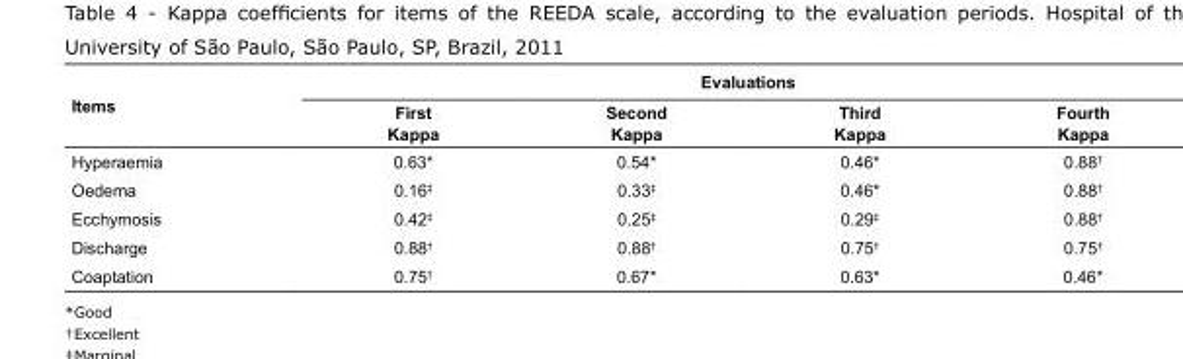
<table><thead><tr><td rowspan="2">Items</td><td colspan="4">Evaluations</td></tr><tr><td>First Kappa</td><td>Second Kappa</td><td>Third Kappa</td><td>Fourth Kappa</td></tr></thead><tbody><tr><td>Hyperaemia</td><td>0.63*</td><td>0.54*</td><td>0.46*</td><td>0.88<sup>†</sup></td></tr><tr><td>Oedema</td><td>0.16<sup>‡</sup></td><td>0.33<sup>‡</sup></td><td>0.46*</td><td>0.88<sup>†</sup></td></tr><tr><td>Ecchymosis</td><td>0.42<sup>‡</sup></td><td>0.25<sup>‡</sup></td><td>0.29<sup>‡</sup></td><td>0.88<sup>†</sup></td></tr><tr><td>Discharge</td><td>0.88<sup>†</sup></td><td>0.88<sup>†</sup></td><td>0.75<sup>†</sup></td><td>0.75<sup>†</sup></td></tr><tr><td>Coaptation</td><td>0.75<sup>†</sup></td><td>0.67*</td><td>0.63*</td><td>0.46*</td></tr></tbody></table>